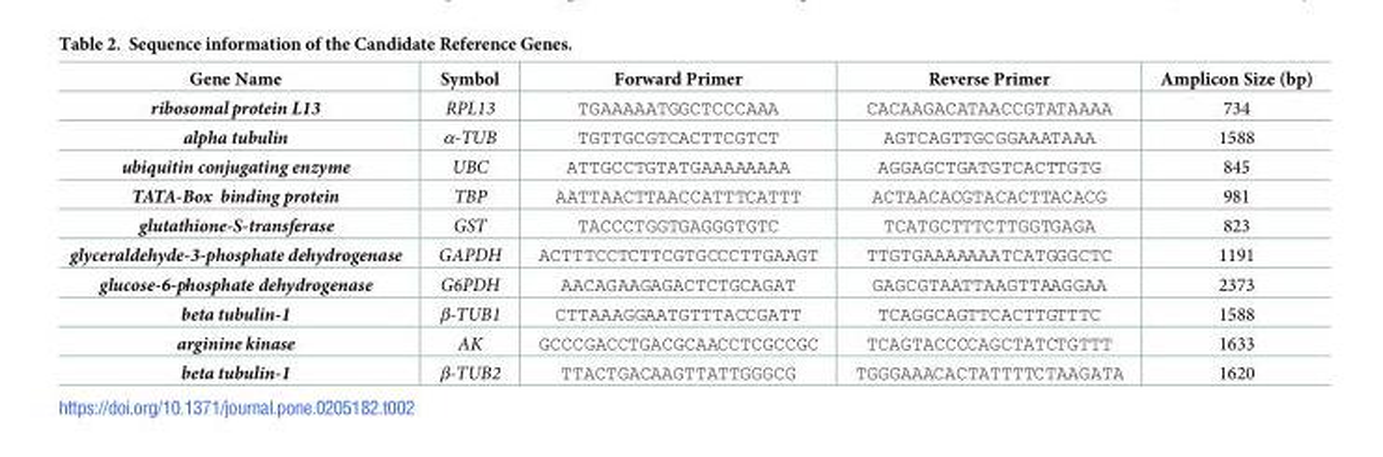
<table><thead><tr><td>Gene Name</td><td>Symbol</td><td>Forward Primer</td><td>Reverse Primer</td><td>Amplicon Size (bp)</td></tr></thead><tbody><tr><td>ribosomal protein L13</td><td>RPL13</td><td>TGAAAAATGGCTCCCAAA</td><td>CACAAGACATAACCGTATAAAA</td><td>734</td></tr><tr><td>alpha tubulin</td><td>α-TUB</td><td>TGTTGCGTCACTTCGTCT</td><td>AGTCAGTTGCGGAAATAAA</td><td>1588</td></tr><tr><td>ubiquitin conjugating enzyme</td><td>UBC</td><td>ATTGCCTGTATGAAAAAAAA</td><td>AGGAGCTGATGTCACTTGTG</td><td>845</td></tr><tr><td>TATA-Box binding protein</td><td>TBP</td><td>AATTAACTTAACCATTTCATTT</td><td>ACTAACACGTACACTTACACG</td><td>981</td></tr><tr><td>glutathione-S-transferase</td><td>GST</td><td>TACCCTGGTGAGGGTGTC</td><td>TCATGCTTTCTTGGTGAGA</td><td>823</td></tr><tr><td>glyceraldehyde-3-phosphate dehydrogenase</td><td>GAPDH</td><td>ACTTTCCTCTTCGTGCCCTTGAAGT</td><td>TTGTGAAAAAAATCATGGGCTC</td><td>1191</td></tr><tr><td>glucose-6-phosphate dehydrogenase</td><td>G6PDH</td><td>AACAGAAGAGACTCTGCAGAT</td><td>GAGCGTAATTAAGTTAAGGAA</td><td>2373</td></tr><tr><td>beta tubulin-1</td><td>β-TUB1</td><td>CTTAAAGGAATGTTTACCGATT</td><td>TCAGGCAGTTCACTTGTTTC</td><td>1588</td></tr><tr><td>arginine kinase</td><td>AK</td><td>GCCCGACCTGACGCAACCTCGCCGC</td><td>TCAGTACCCCAGCTATCTGTTT</td><td>1633</td></tr><tr><td>beta tubulin-1</td><td>β-TUB2</td><td>TTACTGACAAGTTATTGGGCG</td><td>TGGGAAACACTATTTTCTAAGATA</td><td>1620</td></tr></tbody></table>